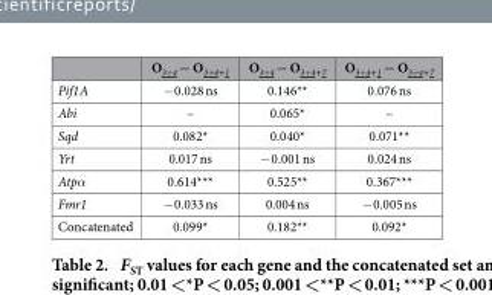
<table><thead><tr><td></td><td>O<sub>3+4</sub> − O<sub>3+4+1</sub></td><td>O<sub>3+4</sub> − O<sub>3+4+7</sub></td><td>O<sub>3+4+1</sub> − O<sub>3+4+7</sub></td></tr></thead><tbody><tr><td>Pif1A</td><td>− 0.028 ns</td><td>0.146**</td><td>0.076 ns</td></tr><tr><td>Abi</td><td>–</td><td>0.065*</td><td>–</td></tr><tr><td>Sqd</td><td>0.082*</td><td>0.040*</td><td>0.071**</td></tr><tr><td>Yrt</td><td>0.017 ns</td><td>− 0.001 ns</td><td>0.024 ns</td></tr><tr><td>Atpα</td><td>0.614***</td><td>0.525**</td><td>0.367***</td></tr><tr><td>Fmr1</td><td>− 0.033 ns</td><td>0.004 ns</td><td>− 0.005 ns</td></tr><tr><td>Concatenated</td><td>0.099*</td><td>0.182**</td><td>0.092*</td></tr></tbody></table>